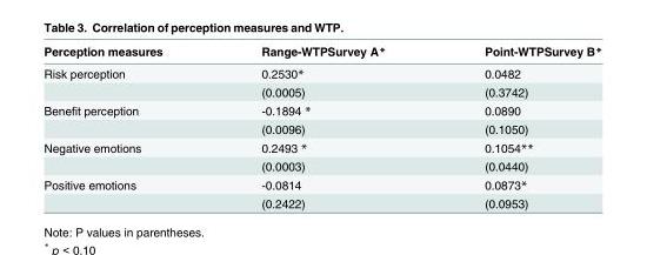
<table><thead><tr><td>Perception measures</td><td>Range-WTPSurvey A*</td><td>Point-WTPSurvey B*</td></tr></thead><tbody><tr><td rowspan="2">Risk perception</td><td>0.2530*</td><td>0.0482</td></tr><tr><td>(0.0005)</td><td>(0.3742)</td></tr><tr><td rowspan="2">Benefit perception</td><td>-0.1894 *</td><td>0.0890</td></tr><tr><td>(0.0096)</td><td>(0.1050)</td></tr><tr><td rowspan="2">Negative emotions</td><td>0.2493 *</td><td>0.1054**</td></tr><tr><td>(0.0003)</td><td>(0.0440)</td></tr><tr><td rowspan="2">Positive emotions</td><td>-0.0814</td><td>0.0873*</td></tr><tr><td>(0.2422)</td><td>(0.0953)</td></tr></tbody></table>